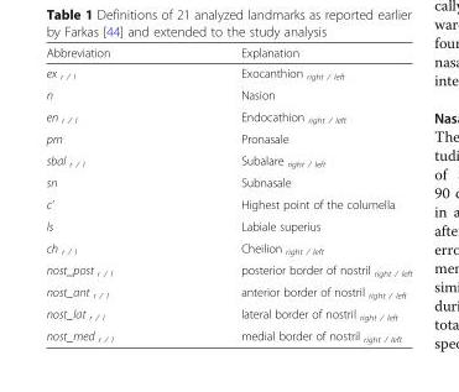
<table><thead><tr><td>Abbreviation</td><td>Explanation</td></tr></thead><tbody><tr><td>ex <sub>r / l</sub></td><td>Exocanthion <sub>right / left</sub></td></tr><tr><td>n</td><td>Nasion</td></tr><tr><td>en <sub>r / l</sub></td><td>Endocathion <sub>right / left</sub></td></tr><tr><td>prn</td><td>Pronasale</td></tr><tr><td>sbal <sub>r / l</sub></td><td>Subalare <sub>right / left</sub></td></tr><tr><td>sn</td><td>Subnasale</td></tr><tr><td>c’</td><td>Highest point of the columella</td></tr><tr><td>ls</td><td>Labiale superius</td></tr><tr><td>ch <sub>r / l</sub></td><td>Cheilion <sub>right / left</sub></td></tr><tr><td>nost_post <sub>r / l</sub></td><td>posterior border of nostril <sub>right / left</sub></td></tr><tr><td>nost_ant <sub>r / l</sub></td><td>anterior border of nostril <sub>right / left</sub></td></tr><tr><td>nost_lat <sub>r / l</sub></td><td>lateral border of nostril <sub>right / left</sub></td></tr><tr><td>nost_med <sub>r / l</sub></td><td>medial border of nostril <sub>right / left</sub></td></tr></tbody></table>